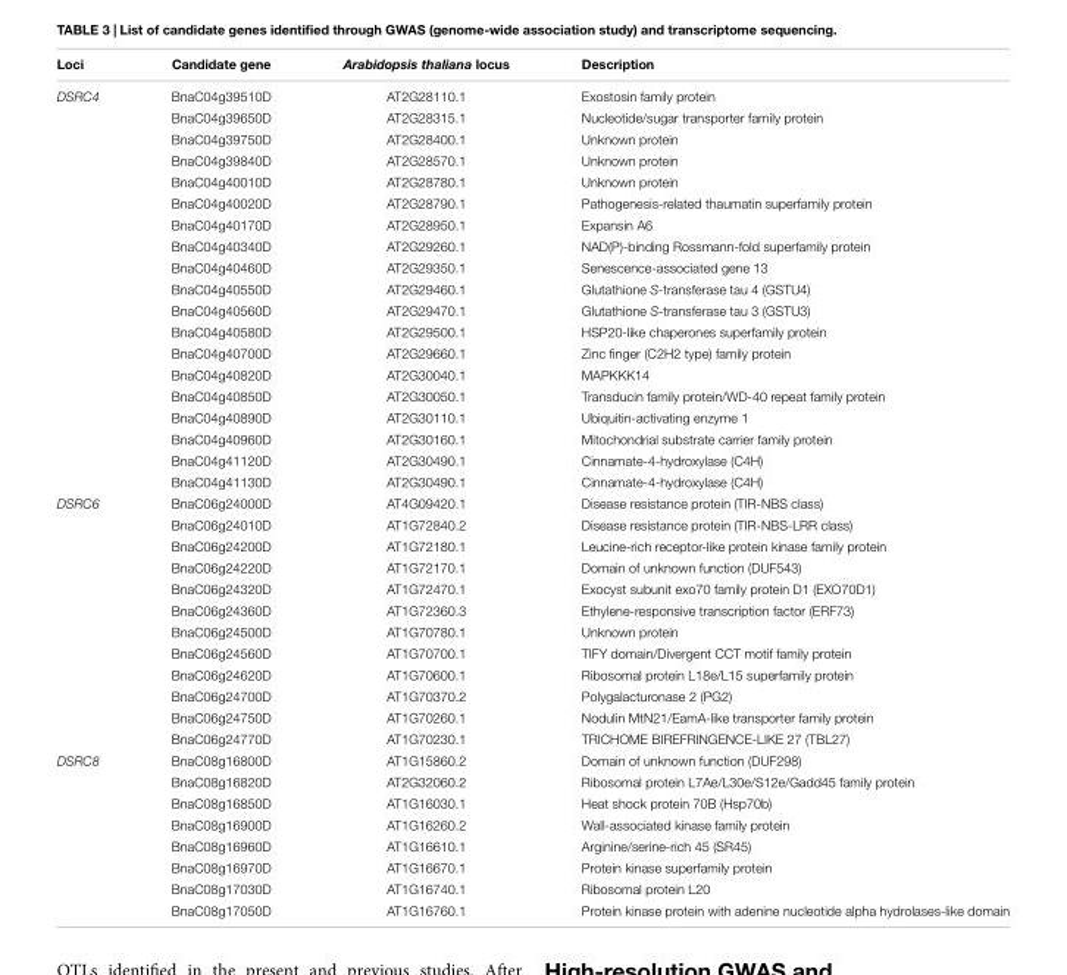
<table><thead><tr><td>Loci</td><td>Candidate gene</td><td>Arabidopsis thaliana locus</td><td>Description</td></tr></thead><tbody><tr><td rowspan="19">DSRC4</td><td>BnaC04g39510D</td><td>AT2G28110.1</td><td>Exostosin family protein</td></tr><tr><td>BnaC04g39650D</td><td>AT2G28315.1</td><td>Nucleotide/sugar transporter family protein</td></tr><tr><td>BnaC04g39750D</td><td>AT2G28400.1</td><td>Unknown protein</td></tr><tr><td>BnaC04g39840D</td><td>AT2G28570.1</td><td>Unknown protein</td></tr><tr><td>BnaC04g40010D</td><td>AT2G28780.1</td><td>Unknown protein</td></tr><tr><td>BnaC04g40020D</td><td>AT2G28790.1</td><td>Pathogenesis-related thaumatin superfamily protein</td></tr><tr><td>BnaC04g40170D</td><td>AT2G28950.1</td><td>Expansin A6</td></tr><tr><td>BnaC04g40340D</td><td>AT2G29260.1</td><td>NAD(P)-binding Rossmann-fold superfamily protein</td></tr><tr><td>BnaC04g40460D</td><td>AT2G29350.1</td><td>Senescence-associated gene 13</td></tr><tr><td>BnaC04g40550D</td><td>AT2G29460.1</td><td>Glutathione S-transferase tau 4 (GSTU4)</td></tr><tr><td>BnaC04g40560D</td><td>AT2G29470.1</td><td>Glutathione S-transferase tau 3 (GSTU3)</td></tr><tr><td>BnaC04g40580D</td><td>AT2G29500.1</td><td>HSP20-like chaperones superfamily protein</td></tr><tr><td>BnaC04g40700D</td><td>AT2G29660.1</td><td>Zinc finger (C2H2 type) family protein</td></tr><tr><td>BnaC04g40820D</td><td>AT2G30040.1</td><td>MAPKKK14</td></tr><tr><td>BnaC04g40850D</td><td>AT2G30050.1</td><td>Transducin family protein/WD-40 repeat family protein</td></tr><tr><td>BnaC04g40890D</td><td>AT2G30110.1</td><td>Ubiquitin-activating enzyme 1</td></tr><tr><td>BnaC04g40960D</td><td>AT2G30160.1</td><td>Mitochondrial substrate carrier family protein</td></tr><tr><td>BnaC04g41120D</td><td>AT2G30490.1</td><td>Cinnamate-4-hydroxylase (C4H)</td></tr><tr><td>BnaC04g41130D</td><td>AT2G30490.1</td><td>Cinnamate-4-hydroxylase (C4H)</td></tr><tr><td rowspan="12">DSRC6</td><td>BnaC06g24000D</td><td>AT4G09420.1</td><td>Disease resistance protein (TIR-NBS class)</td></tr><tr><td>BnaC06g24010D</td><td>AT1G72840.2</td><td>Disease resistance protein (TIR-NBS-LRR class)</td></tr><tr><td>BnaC06g24200D</td><td>AT1G72180.1</td><td>Leucine-rich receptor-like protein kinase family protein</td></tr><tr><td>BnaC06g24220D</td><td>AT1G72170.1</td><td>Domain of unknown function (DUF543)</td></tr><tr><td>BnaC06g24320D</td><td>AT1G72470.1</td><td>Exocyst subunit exo70 family protein D1 (EXO70D1)</td></tr><tr><td>BnaC06g24360D</td><td>AT1G72360.3</td><td>Ethylene-responsive transcription factor (ERF73)</td></tr><tr><td>BnaC06g24500D</td><td>AT1G70780.1</td><td>Unknown protein</td></tr><tr><td>BnaC06g24560D</td><td>AT1G70700.1</td><td>TIFY domain/Divergent CCT motif family protein</td></tr><tr><td>BnaC06g24620D</td><td>AT1G70600.1</td><td>Ribosomal protein L18e/L15 superfamily protein</td></tr><tr><td>BnaC06g24700D</td><td>AT1G70370.2</td><td>Polygalacturonase 2 (PG2)</td></tr><tr><td>BnaC06g24750D</td><td>AT1G70260.1</td><td>Nodulin MtN21/EamA-like transporter family protein</td></tr><tr><td>BnaC06g24770D</td><td>AT1G70230.1</td><td>TRICHOME BIREFRINGENCE-LIKE 27 (TBL27)</td></tr><tr><td rowspan="8">DSRC8</td><td>BnaC08g16800D</td><td>AT1G15860.2</td><td>Domain of unknown function (DUF298)</td></tr><tr><td>BnaC08g16820D</td><td>AT2G32060.2</td><td>Ribosomal protein L7Ae/L30e/S12e/Gadd45 family protein</td></tr><tr><td>BnaC08g16850D</td><td>AT1G16030.1</td><td>Heat shock protein 70B (Hsp70b)</td></tr><tr><td>BnaC08g16900D</td><td>AT1G16260.2</td><td>Wall-associated kinase family protein</td></tr><tr><td>BnaC08g16960D</td><td>AT1G16610.1</td><td>Arginine/serine-rich 45 (SR45)</td></tr><tr><td>BnaC08g16970D</td><td>AT1G16670.1</td><td>Protein kinase superfamily protein</td></tr><tr><td>BnaC08g17030D</td><td>AT1G16740.1</td><td>Ribosomal protein L20</td></tr><tr><td>BnaC08g17050D</td><td>AT1G16760.1</td><td>Protein kinase protein with adenine nucleotide alpha hydrolases-like domain</td></tr></tbody></table>